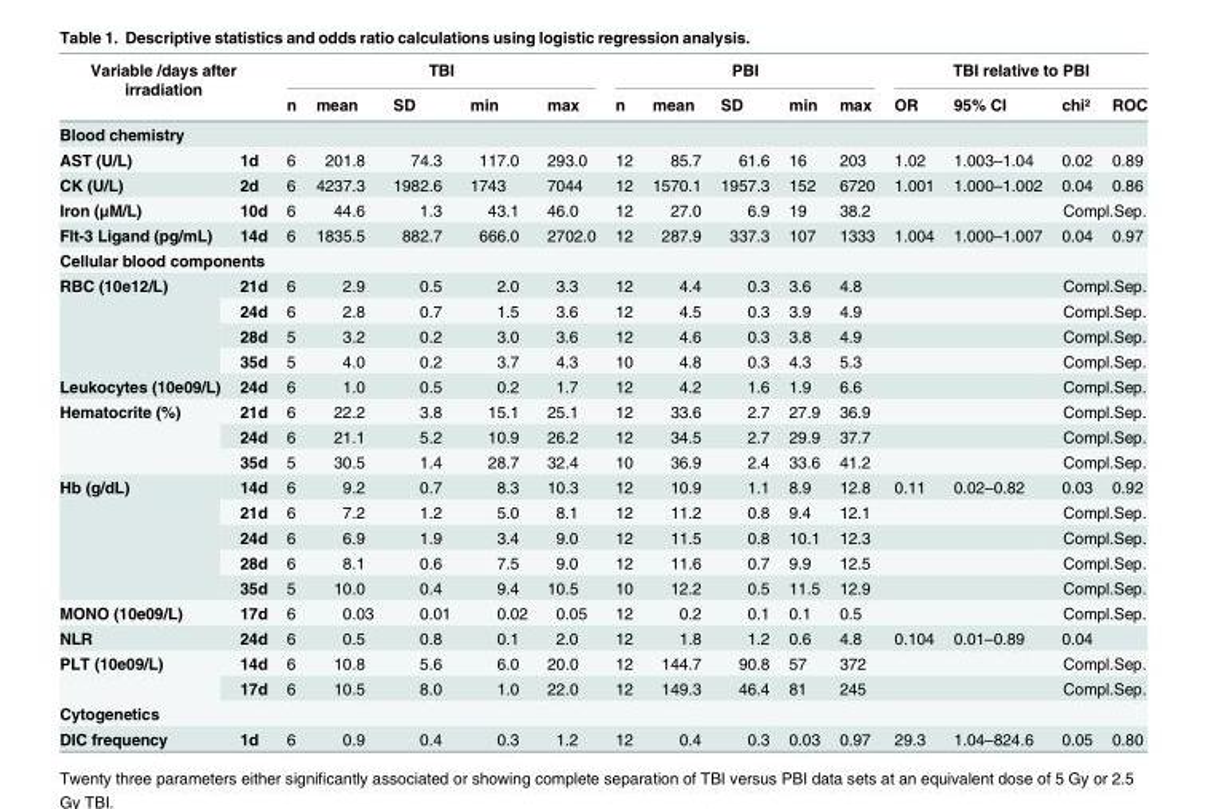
<table><thead><tr><td rowspan="2" colspan="2">Variable /days after irradiation</td><td colspan="5">TBI</td><td colspan="5">PBI</td><td colspan="4">TBI relative to PBI</td></tr><tr><td>n</td><td>mean</td><td>SD</td><td>min</td><td>max</td><td>n</td><td>mean</td><td>SD</td><td>min</td><td>max</td><td>OR</td><td>95% CI</td><td>chi²</td><td>ROC</td></tr><tr><td colspan="16">Blood chemistry</td></tr><tr><td>AST (U/L)</td><td>1d</td><td>6</td><td>201.8</td><td>74.3</td><td>117.0</td><td>293.0</td><td>12</td><td>85.7</td><td>61.6</td><td>16</td><td>203</td><td>1.02</td><td>1.003–1.04</td><td>0.02</td><td>0.89</td></tr></thead><tbody><tr><td>CK (U/L)</td><td>2d</td><td>6</td><td>4237.3</td><td>1982.6</td><td>1743</td><td>7044</td><td>12</td><td>1570.1</td><td>1957.3</td><td>152</td><td>6720</td><td>1.001</td><td>1.000–1.002</td><td>0.04</td><td>0.86</td></tr><tr><td>Iron (μM/L)</td><td>10d</td><td>6</td><td>44.6</td><td>1.3</td><td>43.1</td><td>46.0</td><td>12</td><td>27.0</td><td>6.9</td><td>19</td><td>38.2</td><td></td><td></td><td colspan="2">Compl.Sep.</td></tr><tr><td>Flt-3 Ligand (pg/mL)</td><td>14d</td><td>6</td><td>1835.5</td><td>882.7</td><td>666.0</td><td>2702.0</td><td>12</td><td>287.9</td><td>337.3</td><td>107</td><td>1333</td><td>1.004</td><td>1.000–1.007</td><td>0.04</td><td>0.97</td></tr><tr><td colspan="16">Cellular blood components</td></tr><tr><td rowspan="4">RBC (10e12/L)</td><td>21d</td><td>6</td><td>2.9</td><td>0.5</td><td>2.0</td><td>3.3</td><td>12</td><td>4.4</td><td>0.3</td><td>3.6</td><td>4.8</td><td></td><td></td><td colspan="2">Compl.Sep.</td></tr><tr><td>24d</td><td>6</td><td>2.8</td><td>0.7</td><td>1.5</td><td>3.6</td><td>12</td><td>4.5</td><td>0.3</td><td>3.9</td><td>4.9</td><td></td><td></td><td colspan="2">Compl.Sep.</td></tr><tr><td>28d</td><td>5</td><td>3.2</td><td>0.2</td><td>3.0</td><td>3.6</td><td>12</td><td>4.6</td><td>0.3</td><td>3.8</td><td>4.9</td><td></td><td></td><td colspan="2">Compl.Sep.</td></tr><tr><td>35d</td><td>5</td><td>4.0</td><td>0.2</td><td>3.7</td><td>4.3</td><td>10</td><td>4.8</td><td>0.3</td><td>4.3</td><td>5.3</td><td></td><td></td><td colspan="2">Compl.Sep.</td></tr><tr><td>Leukocytes (10e09/L)</td><td>24d</td><td>6</td><td>1.0</td><td>0.5</td><td>0.2</td><td>1.7</td><td>12</td><td>4.2</td><td>1.6</td><td>1.9</td><td>6.6</td><td></td><td></td><td colspan="2">Compl.Sep.</td></tr><tr><td rowspan="3">Hematocrite (%)</td><td>21d</td><td>6</td><td>22.2</td><td>3.8</td><td>15.1</td><td>25.1</td><td>12</td><td>33.6</td><td>2.7</td><td>27.9</td><td>36.9</td><td></td><td></td><td colspan="2">Compl.Sep.</td></tr><tr><td>24d</td><td>6</td><td>21.1</td><td>5.2</td><td>10.9</td><td>26.2</td><td>12</td><td>34.5</td><td>2.7</td><td>29.9</td><td>37.7</td><td></td><td></td><td colspan="2">Compl.Sep.</td></tr><tr><td>35d</td><td>5</td><td>30.5</td><td>1.4</td><td>28.7</td><td>32.4</td><td>10</td><td>36.9</td><td>2.4</td><td>33.6</td><td>41.2</td><td></td><td></td><td colspan="2">Compl.Sep.</td></tr><tr><td rowspan="5">Hb (g/dL)</td><td>14d</td><td>6</td><td>9.2</td><td>0.7</td><td>8.3</td><td>10.3</td><td>12</td><td>10.9</td><td>1.1</td><td>8.9</td><td>12.8</td><td>0.11</td><td>0.02–0.82</td><td>0.03</td><td>0.92</td></tr><tr><td>21d</td><td>6</td><td>7.2</td><td>1.2</td><td>5.0</td><td>8.1</td><td>12</td><td>11.2</td><td>0.8</td><td>9.4</td><td>12.1</td><td></td><td></td><td colspan="2">Compl.Sep.</td></tr><tr><td>24d</td><td>6</td><td>6.9</td><td>1.9</td><td>3.4</td><td>9.0</td><td>12</td><td>11.5</td><td>0.8</td><td>10.1</td><td>12.3</td><td></td><td></td><td colspan="2">Compl.Sep.</td></tr><tr><td>28d</td><td>6</td><td>8.1</td><td>0.6</td><td>7.5</td><td>9.0</td><td>12</td><td>11.6</td><td>0.7</td><td>9.9</td><td>12.5</td><td></td><td></td><td colspan="2">Compl.Sep.</td></tr><tr><td>35d</td><td>5</td><td>10.0</td><td>0.4</td><td>9.4</td><td>10.5</td><td>10</td><td>12.2</td><td>0.5</td><td>11.5</td><td>12.9</td><td></td><td></td><td colspan="2">Compl.Sep.</td></tr><tr><td>MONO (10e09/L)</td><td>17d</td><td>6</td><td>0.03</td><td>0.01</td><td>0.02</td><td>0.05</td><td>12</td><td>0.2</td><td>0.1</td><td>0.1</td><td>0.5</td><td></td><td></td><td colspan="2">Compl.Sep.</td></tr><tr><td>NLR</td><td>24d</td><td>6</td><td>0.5</td><td>0.8</td><td>0.1</td><td>2.0</td><td>12</td><td>1.8</td><td>1.2</td><td>0.6</td><td>4.8</td><td>0.104</td><td>0.01–0.89</td><td>0.04</td><td></td></tr><tr><td rowspan="2">PLT (10e09/L)</td><td>14d</td><td>6</td><td>10.8</td><td>5.6</td><td>6.0</td><td>20.0</td><td>12</td><td>144.7</td><td>90.8</td><td>57</td><td>372</td><td></td><td></td><td colspan="2">Compl.Sep.</td></tr><tr><td>17d</td><td>6</td><td>10.5</td><td>8.0</td><td>1.0</td><td>22.0</td><td>12</td><td>149.3</td><td>46.4</td><td>81</td><td>245</td><td></td><td></td><td colspan="2">Compl.Sep.</td></tr><tr><td colspan="16">Cytogenetics</td></tr><tr><td>DIC frequency</td><td>1d</td><td>6</td><td>0.9</td><td>0.4</td><td>0.3</td><td>1.2</td><td>12</td><td>0.4</td><td>0.3</td><td>0.03</td><td>0.97</td><td>29.3</td><td>1.04–824.6</td><td>0.05</td><td>0.80</td></tr></tbody></table>